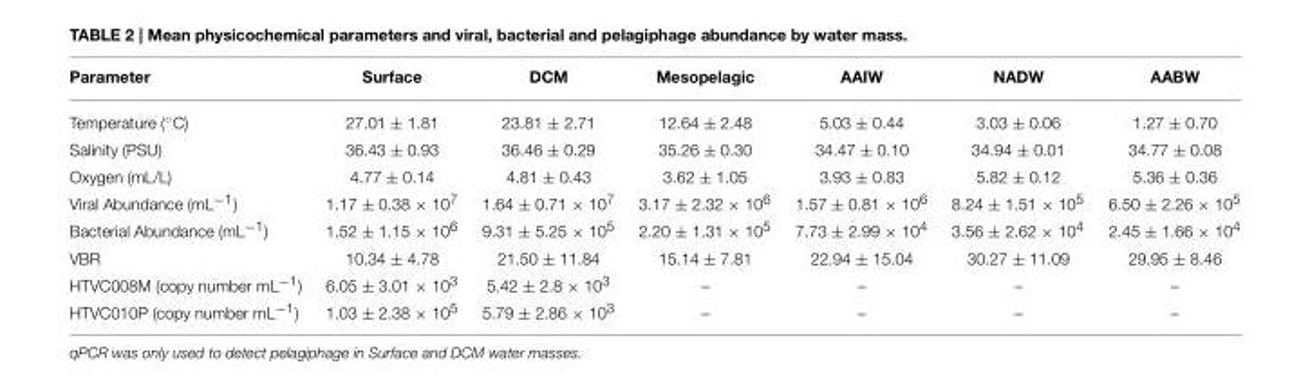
<table><thead><tr><td>Parameter</td><td>Surface</td><td>DCM</td><td>Mesopelagic</td><td>AAIW</td><td>NADW</td><td>AABW</td></tr></thead><tbody><tr><td>Temperature (◦C)</td><td>27.01 ± 1.81</td><td>23.81 ± 2.71</td><td>12.64 ± 2.48</td><td>5.03 ± 0.44</td><td>3.03 ± 0.06</td><td>1.27 ± 0.70</td></tr><tr><td>Salinity (PSU)</td><td>36.43 ± 0.93</td><td>36.46 ± 0.29</td><td>35.26 ± 0.30</td><td>34.47 ± 0.10</td><td>34.94 ± 0.01</td><td>34.77 ± 0.08</td></tr><tr><td>Oxygen (mL/L)</td><td>4.77 ± 0.14</td><td>4.81 ± 0.43</td><td>3.62 ± 1.05</td><td>3.93 ± 0.83</td><td>5.82 ± 0.12</td><td>5.36 ± 0.36</td></tr><tr><td>Viral Abundance (mL<sup>−1</sup>)</td><td>1.17 ± 0.38 × 10<sup>7</sup></td><td>1.64 ± 0.71 × 10<sup>7</sup></td><td>3.17 ± 2.32 × 10<sup>6</sup></td><td>1.57 ± 0.81 × 10<sup>6</sup></td><td>8.24 ± 1.51 × 10<sup>5</sup></td><td>6.50 ± 2.26 × 10<sup>5</sup></td></tr><tr><td>Bacterial Abundance (mL<sup>−1</sup>)</td><td>1.52 ± 1.15 × 10<sup>6</sup></td><td>9.31 ± 5.25 × 10<sup>5</sup></td><td>2.20 ± 1.31 × 10<sup>5</sup></td><td>7.73 ± 2.99 × 10<sup>4</sup></td><td>3.56 ± 2.62 × 10<sup>4</sup></td><td>2.45 ± 1.66 × 10<sup>4</sup></td></tr><tr><td>VBR</td><td>10.34 ± 4.78</td><td>21.50 ± 11.84</td><td>15.14 ± 7.81</td><td>22.94 ± 15.04</td><td>30.27 ± 11.09</td><td>29.95 ± 8.46</td></tr><tr><td>HTVC008M (copy number mL<sup>−1</sup>)</td><td>6.05 ± 3.01 × 10<sup>3</sup></td><td>5.42 ± 2.8 × 10<sup>3</sup></td><td>–</td><td>–</td><td>–</td><td>–</td></tr><tr><td>HTVC010P (copy number mL<sup>−1</sup>)</td><td>1.03 ± 2.38 × 10<sup>5</sup></td><td>5.79 ± 2.86 × 10<sup>3</sup></td><td>–</td><td>–</td><td>–</td><td>–</td></tr></tbody></table>